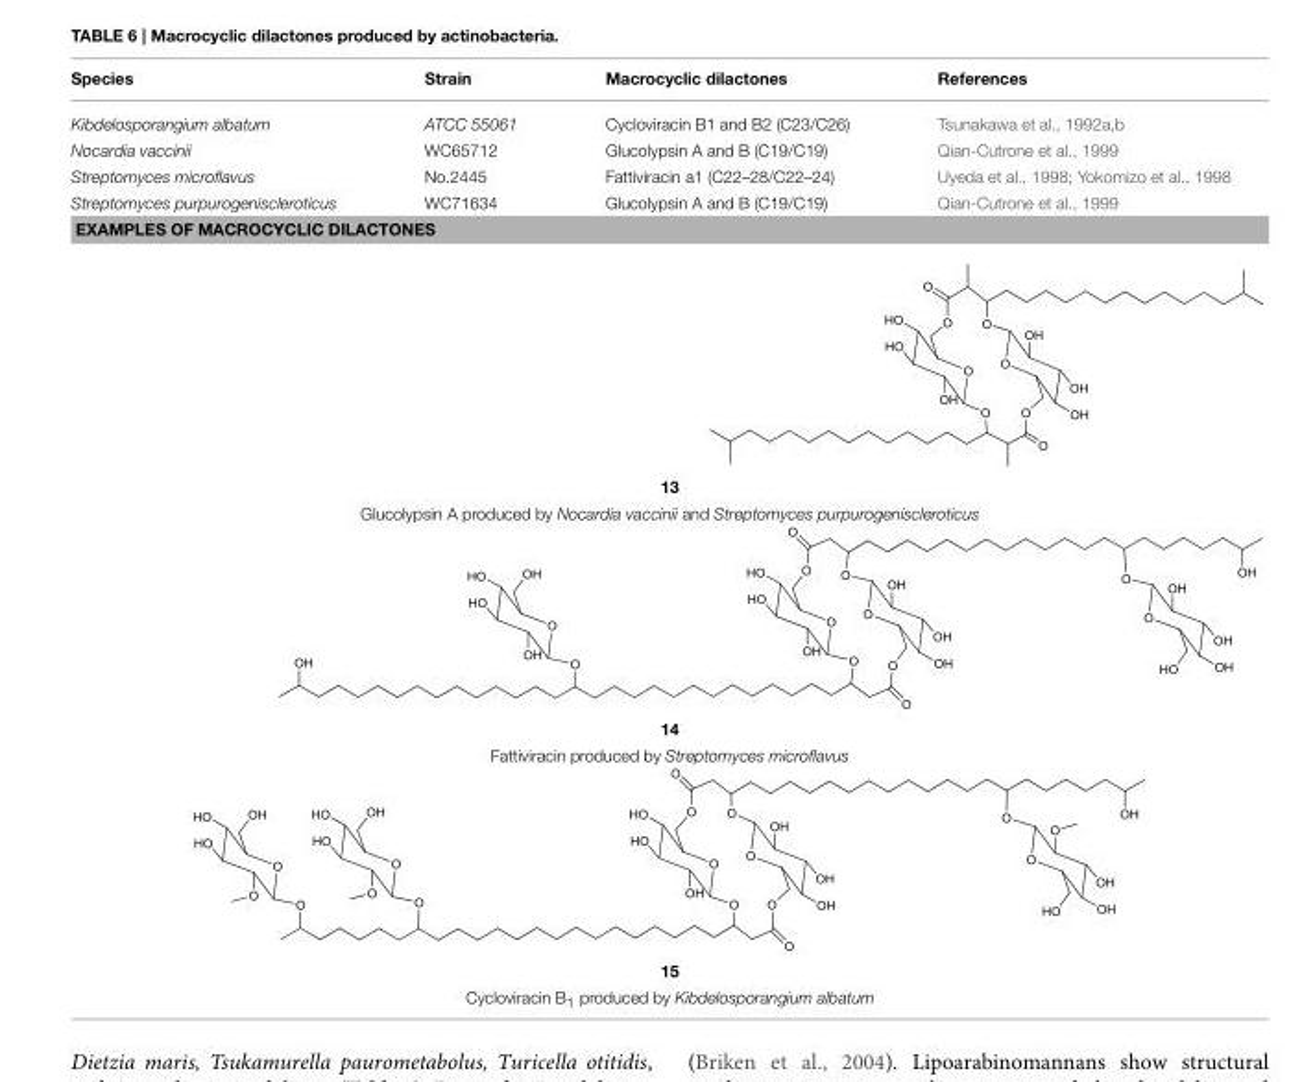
<table><thead><tr><td>Species</td><td>Strain</td><td>Macrocyclic dilactones</td><td>References</td></tr></thead><tbody><tr><td>Kibdelosporangium albatum</td><td>ATCC 55061</td><td>Cycloviracin B1 and B2 (C23/C26)</td><td>Tsunakawa et al., 1992a,b</td></tr><tr><td>Nocardia vaccinii</td><td>WC65712</td><td>Glucolypsin A and B (C19/C19)</td><td>Qian-Cutrone et al., 1999</td></tr><tr><td>Streptomyces microflavus</td><td>No.2445</td><td>Fattiviracin a1 (C22–28/C22–24)</td><td>Uyeda et al., 1998; Yokomizo et al., 1998</td></tr><tr><td>Streptomyces purpurogeniscleroticus</td><td>WC71634</td><td>Glucolypsin A and B (C19/C19)</td><td>Qian-Cutrone et al., 1999</td></tr><tr><td colspan="4">EXAMPLES OF MACROCYCLIC DILACTONES</td></tr><tr><td colspan="4">13</td></tr><tr><td colspan="4">Glucolypsin A produced by Nocardia vaccinii and Streptomyces purpurogeniscleroticus</td></tr><tr><td colspan="4">14</td></tr><tr><td colspan="4">Fattiviracin produced by Streptomyces microflavus</td></tr><tr><td colspan="4">15</td></tr><tr><td colspan="4">Cycloviracin B<sub>1</sub> produced by Kibdelosporangium albatum</td></tr></tbody></table>